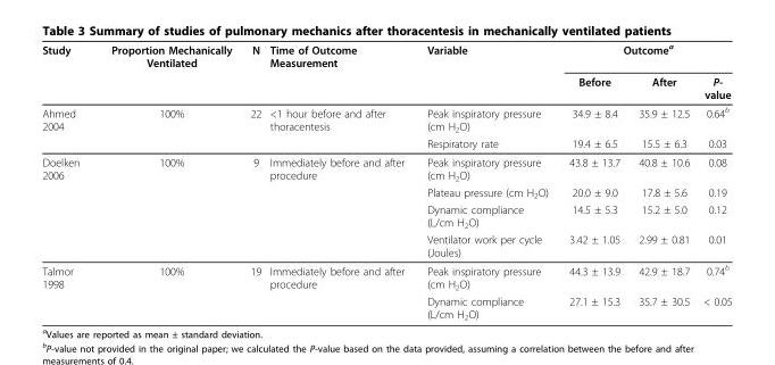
<table><thead><tr><td rowspan="2">Study</td><td rowspan="2">Proportion Mechanically Ventilated</td><td rowspan="2">N</td><td rowspan="2">Time of Outcome Measurement</td><td rowspan="2">Variable</td><td colspan="3">Outcome<sup>a</sup></td></tr><tr><td>Before</td><td>After</td><td>P- value</td></tr></thead><tbody><tr><td rowspan="2">Ahmed 2004</td><td>100%</td><td>22</td><td>&lt;1 hour before and after thoracentesis</td><td>Peak inspiratory pressure (cm H<sub>2</sub>O)</td><td>34.9 ± 8.4</td><td>35.9 ± 12.5</td><td>0.64<sup>b</sup></td></tr><tr><td></td><td></td><td></td><td>Respiratory rate</td><td>19.4 ± 6.5</td><td>15.5 ± 6.3</td><td>0.03</td></tr><tr><td rowspan="4">Doelken 2006</td><td>100%</td><td>9</td><td>Immediately before and after procedure</td><td>Peak inspiratory pressure (cm H<sub>2</sub>O)</td><td>43.8 ± 13.7</td><td>40.8 ± 10.6</td><td>0.08</td></tr><tr><td></td><td></td><td></td><td>Plateau pressure (cm H<sub>2</sub>O)</td><td>20.0 ± 9.0</td><td>17.8 ± 5.6</td><td>0.19</td></tr><tr><td></td><td></td><td></td><td>Dynamic compliance (L/cm H<sub>2</sub>O)</td><td>14.5 ± 5.3</td><td>15.2 ± 5.0</td><td>0.12</td></tr><tr><td></td><td></td><td></td><td>Ventilator work per cycle (Joules)</td><td>3.42 ± 1.05</td><td>2.99 ± 0.81</td><td>0.01</td></tr><tr><td rowspan="2">Talmor 1998</td><td>100%</td><td>19</td><td>Immediately before and after procedure</td><td>Peak inspiratory pressure (cm H<sub>2</sub>O)</td><td>44.3 ± 13.9</td><td>42.9 ± 18.7</td><td>0.74<sup>b</sup></td></tr><tr><td></td><td></td><td></td><td>Dynamic compliance (L/cm H<sub>2</sub>O)</td><td>27.1 ± 15.3</td><td>35.7 ± 30.5</td><td>&lt; 0.05</td></tr></tbody></table>